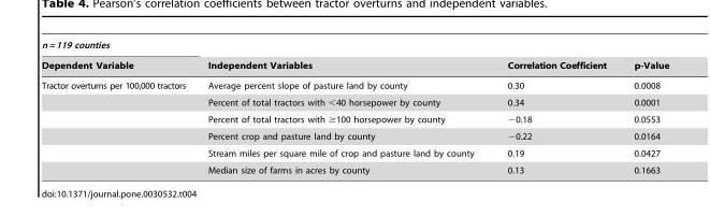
<table><thead><tr><td rowspan="2">n = 119 counties Dependent Variable</td><td rowspan="2">Independent Variables</td><td rowspan="2">Correlation Coefficient</td><td rowspan="2">p-Value</td></tr><tr></tr></thead><tbody><tr><td rowspan="6">Tractor overturns per 100,000 tractors</td><td>Average percent slope of pasture land by county</td><td>0.30</td><td>0.0008</td></tr><tr><td>Percent of total tractors with &lt;40 horsepower by county</td><td>0.34</td><td>0.0001</td></tr><tr><td>Percent of total tractors with ≥100 horsepower by county</td><td>−0.18</td><td>0.0553</td></tr><tr><td>Percent crop and pasture land by county</td><td>−0.22</td><td>0.0164</td></tr><tr><td>Stream miles per square mile of crop and pasture land by county</td><td>0.19</td><td>0.0427</td></tr><tr><td>Median size of farms in acres by county</td><td>0.13</td><td>0.1663</td></tr></tbody></table>